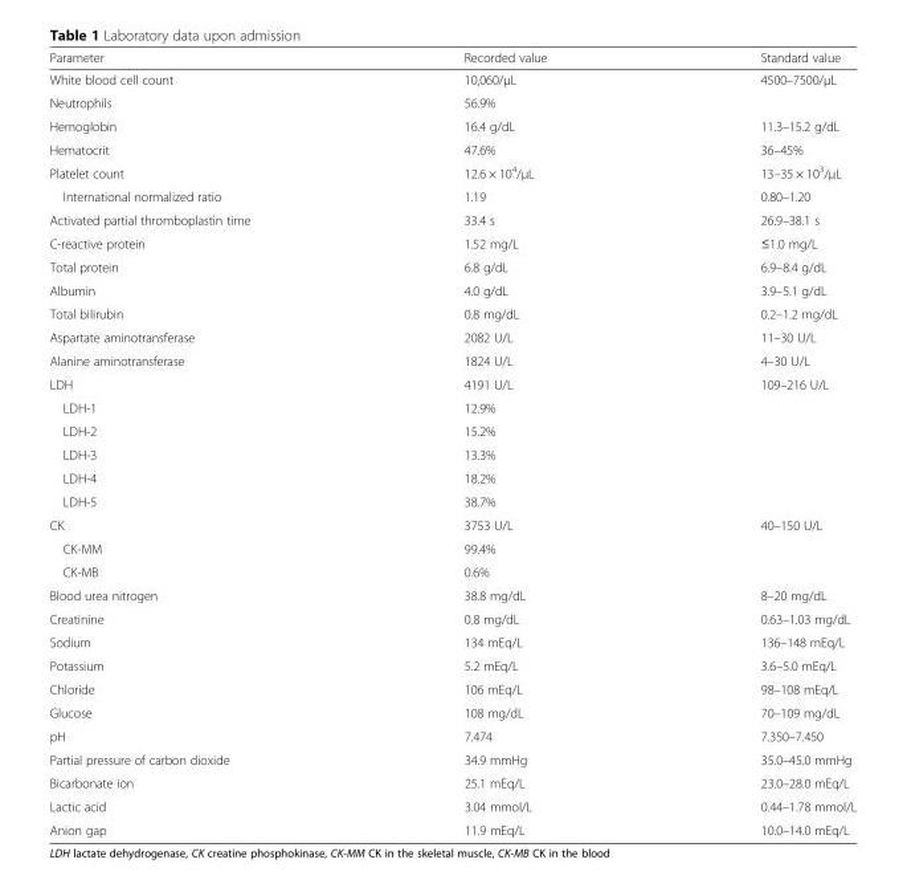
<table><thead><tr><td>Parameter</td><td>Recorded value</td><td>Standard value</td></tr></thead><tbody><tr><td>White blood cell count</td><td>10,060/μL</td><td>4500–7500/μL</td></tr><tr><td>Neutrophils</td><td>56.9%</td><td></td></tr><tr><td>Hemoglobin</td><td>16.4 g/dL</td><td>11.3–15.2 g/dL</td></tr><tr><td>Hematocrit</td><td>47.6%</td><td>36–45%</td></tr><tr><td>Platelet count</td><td>12.6 × 10<sup>4</sup>/μL</td><td>13–35 × 10<sup>3</sup>/μL</td></tr><tr><td>International normalized ratio</td><td>1.19</td><td>0.80–1.20</td></tr><tr><td>Activated partial thromboplastin time</td><td>33.4 s</td><td>26.9–38.1 s</td></tr><tr><td>C-reactive protein</td><td>1.52 mg/L</td><td>≤1.0 mg/L</td></tr><tr><td>Total protein</td><td>6.8 g/dL</td><td>6.9–8.4 g/dL</td></tr><tr><td>Albumin</td><td>4.0 g/dL</td><td>3.9–5.1 g/dL</td></tr><tr><td>Total bilirubin</td><td>0.8 mg/dL</td><td>0.2–1.2 mg/dL</td></tr><tr><td>Aspartate aminotransferase</td><td>2082 U/L</td><td>11–30 U/L</td></tr><tr><td>Alanine aminotransferase</td><td>1824 U/L</td><td>4–30 U/L</td></tr><tr><td>LDH</td><td>4191 U/L</td><td>109–216 U/L</td></tr><tr><td>LDH-1</td><td>12.9%</td><td></td></tr><tr><td>LDH-2</td><td>15.2%</td><td></td></tr><tr><td>LDH-3</td><td>13.3%</td><td></td></tr><tr><td>LDH-4</td><td>18.2%</td><td></td></tr><tr><td>LDH-5</td><td>38.7%</td><td></td></tr><tr><td>CK</td><td>3753 U/L</td><td>40–150 U/L</td></tr><tr><td>CK-MM</td><td>99.4%</td><td></td></tr><tr><td>CK-MB</td><td>0.6%</td><td></td></tr><tr><td>Blood urea nitrogen</td><td>38.8 mg/dL</td><td>8–20 mg/dL</td></tr><tr><td>Creatinine</td><td>0.8 mg/dL</td><td>0.63–1.03 mg/dL</td></tr><tr><td>Sodium</td><td>134 mEq/L</td><td>136–148 mEq/L</td></tr><tr><td>Potassium</td><td>5.2 mEq/L</td><td>3.6–5.0 mEq/L</td></tr><tr><td>Chloride</td><td>106 mEq/L</td><td>98–108 mEq/L</td></tr><tr><td>Glucose</td><td>108 mg/dL</td><td>70–109 mg/dL</td></tr><tr><td>pH</td><td>7.474</td><td>7.350–7.450</td></tr><tr><td>Partial pressure of carbon dioxide</td><td>34.9 mmHg</td><td>35.0–45.0 mmHg</td></tr><tr><td>Bicarbonate ion</td><td>25.1 mEq/L</td><td>23.0–28.0 mEq/L</td></tr><tr><td>Lactic acid</td><td>3.04 mmol/L</td><td>0.44–1.78 mmol/L</td></tr><tr><td>Anion gap</td><td>11.9 mEq/L</td><td>10.0–14.0 mEq/L</td></tr></tbody></table>